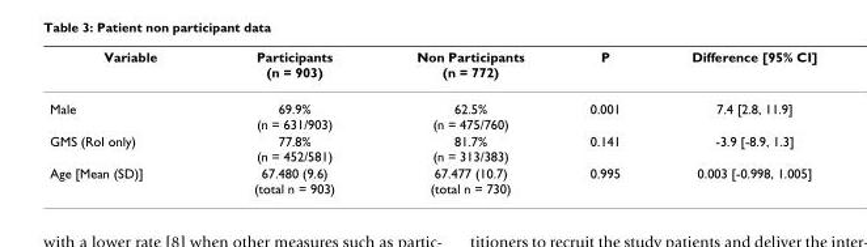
<table><thead><tr><td>Variable</td><td>Participants (n = 903)</td><td>Non Participants (n = 772)</td><td>P</td><td>Difference [95% CI]</td></tr></thead><tbody><tr><td>Male</td><td>69.9% (n = 631/903)</td><td>62.5% (n = 475/760)</td><td>0.001</td><td>7.4 [2.8, 11.9]</td></tr><tr><td>GMS (RoI only)</td><td>77.8% (n = 452/581)</td><td>81.7% (n = 313/383)</td><td>0.141</td><td>-3.9 [-8.9, 1.3]</td></tr><tr><td>Age [Mean (SD)]</td><td>67.480 (9.6) (total n = 903)</td><td>67.477 (10.7) (total n = 730)</td><td>0.995</td><td>0.003 [-0.998, 1.005]</td></tr></tbody></table>